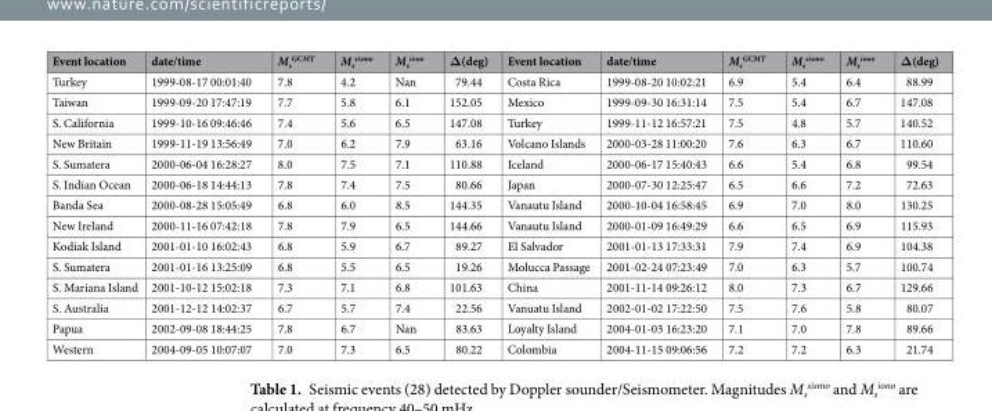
<table><thead><tr><td>Event location</td><td>date/time</td><td>M<sub>s</sub> <sup>GCMT</sup></td><td>M<sub>s</sub> <sup>sismo</sup></td><td>M<sub>s</sub> <sup>iono</sup></td><td>Δ(deg)</td><td>Event location</td><td>date/time</td><td>M<sub>s</sub> <sup>GCMT</sup></td><td>M<sub>s</sub> <sup>sismo</sup></td><td>M<sub>s</sub> <sup>iono</sup></td><td>Δ(deg)</td></tr></thead><tbody><tr><td>Turkey</td><td>1999-08-17 00:01:40</td><td>7.8</td><td>4.2</td><td>Nan</td><td>79.44</td><td>Costa Rica</td><td>1999-08-20 10:02:21</td><td>6.9</td><td>5.4</td><td>6.4</td><td>88.99</td></tr><tr><td>Taiwan</td><td>1999-09-20 17:47:19</td><td>7.7</td><td>5.8</td><td>6.1</td><td>152.05</td><td>Mexico</td><td>1999-09-30 16:31:14</td><td>7.5</td><td>5.4</td><td>6.7</td><td>147.08</td></tr><tr><td>S. California</td><td>1999-10-16 09:46:46</td><td>7.4</td><td>5.6</td><td>6.5</td><td>147.08</td><td>Turkey</td><td>1999-11-12 16:57:21</td><td>7.5</td><td>4.8</td><td>5.7</td><td>140.52</td></tr><tr><td>New Britain</td><td>1999-11-19 13:56:49</td><td>7.0</td><td>6.2</td><td>7.9</td><td>63.16</td><td>Volcano Islands</td><td>2000-03-28 11:00:20</td><td>7.6</td><td>6.3</td><td>6.7</td><td>110.60</td></tr><tr><td>S. Sumatera</td><td>2000-06-04 16:28:27</td><td>8.0</td><td>7.5</td><td>7.1</td><td>110.88</td><td>Iceland</td><td>2000-06-17 15:40:43</td><td>6.6</td><td>5.4</td><td>6.8</td><td>99.54</td></tr><tr><td>S. Indian Ocean</td><td>2000-06-18 14:44:13</td><td>7.8</td><td>7.4</td><td>7.5</td><td>80.66</td><td>Japan</td><td>2000-07-30 12:25:47</td><td>6.5</td><td>6.6</td><td>7.2</td><td>72.63</td></tr><tr><td>Banda Sea</td><td>2000-08-28 15:05:49</td><td>6.8</td><td>6.0</td><td>8.5</td><td>144.35</td><td>Vanautu Island</td><td>2000-10-04 16:58:45</td><td>6.9</td><td>7.0</td><td>8.0</td><td>130.25</td></tr><tr><td>New Ireland</td><td>2000-11-16 07:42:18</td><td>7.8</td><td>7.9</td><td>6.5</td><td>144.66</td><td>Vanautu Island</td><td>2000-01-09 16:49:29</td><td>6.6</td><td>6.5</td><td>6.9</td><td>115.93</td></tr><tr><td>Kodiak Island</td><td>2001-01-10 16:02:43</td><td>6.8</td><td>5.9</td><td>6.7</td><td>89.27</td><td>El Salvador</td><td>2001-01-13 17:33:31</td><td>7.9</td><td>7.4</td><td>6.9</td><td>104.38</td></tr><tr><td>S. Sumatera</td><td>2001-01-16 13:25:09</td><td>6.8</td><td>5.5</td><td>6.5</td><td>19.26</td><td>Molucca Passage</td><td>2001-02-24 07:23:49</td><td>7.0</td><td>6.3</td><td>5.7</td><td>100.74</td></tr><tr><td>S. Mariana Island</td><td>2001-10-12 15:02:18</td><td>7.3</td><td>7.1</td><td>6.8</td><td>101.63</td><td>China</td><td>2001-11-14 09:26:12</td><td>8.0</td><td>7.3</td><td>6.7</td><td>129.66</td></tr><tr><td>S. Australia</td><td>2001-12-12 14:02:37</td><td>6.7</td><td>5.7</td><td>7.4</td><td>22.56</td><td>Vanuatu Island</td><td>2002-01-02 17:22:50</td><td>7.5</td><td>7.6</td><td>5.8</td><td>80.07</td></tr><tr><td>Papua</td><td>2002-09-08 18:44:25</td><td>7.8</td><td>6.7</td><td>Nan</td><td>83.63</td><td>Loyalty Island</td><td>2004-01-03 16:23:20</td><td>7.1</td><td>7.0</td><td>7.8</td><td>89.66</td></tr><tr><td>Western</td><td>2004-09-05 10:07:07</td><td>7.0</td><td>7.3</td><td>6.5</td><td>80.22</td><td>Colombia</td><td>2004-11-15 09:06:56</td><td>7.2</td><td>7.2</td><td>6.3</td><td>21.74</td></tr></tbody></table>